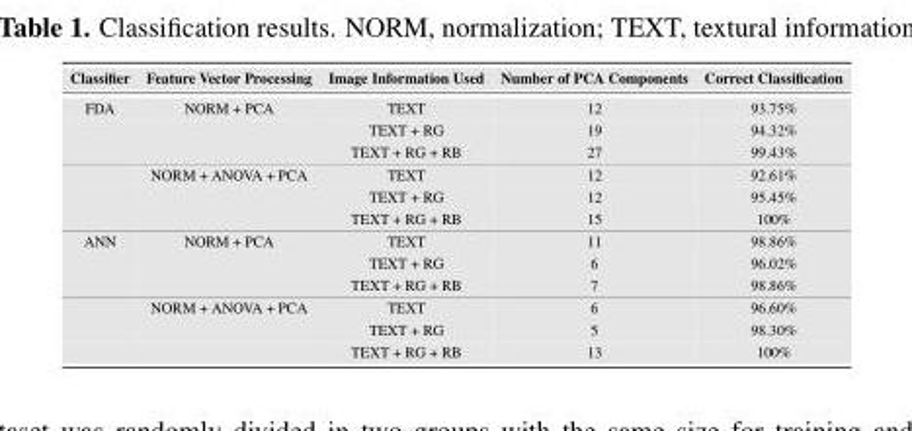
<table><thead><tr><td>Classifier</td><td>Feature Vector Processing</td><td>Image Information Used</td><td>Number of PCA Components</td><td>Correct Classification</td></tr></thead><tbody><tr><td rowspan="6">FDA</td><td rowspan="3">NORM + PCA</td><td>TEXT</td><td>12</td><td>93.75%</td></tr><tr><td>TEXT + RG</td><td>19</td><td>94.32%</td></tr><tr><td>TEXT + RG + RB</td><td>27</td><td>99.43%</td></tr><tr><td rowspan="3">NORM + ANOVA + PCA</td><td>TEXT</td><td>12</td><td>92.61%</td></tr><tr><td>TEXT + RG</td><td>12</td><td>95.45%</td></tr><tr><td>TEXT + RG + RB</td><td>15</td><td>100%</td></tr><tr><td rowspan="6">ANN</td><td rowspan="3">NORM + PCA</td><td>TEXT</td><td>11</td><td>98.86%</td></tr><tr><td>TEXT + RG</td><td>6</td><td>96.02%</td></tr><tr><td>TEXT + RG + RB</td><td>7</td><td>98.86%</td></tr><tr><td rowspan="3">NORM + ANOVA + PCA</td><td>TEXT</td><td>6</td><td>96.60%</td></tr><tr><td>TEXT + RG</td><td>5</td><td>98.30%</td></tr><tr><td>TEXT + RG + RB</td><td>13</td><td>100%</td></tr></tbody></table>